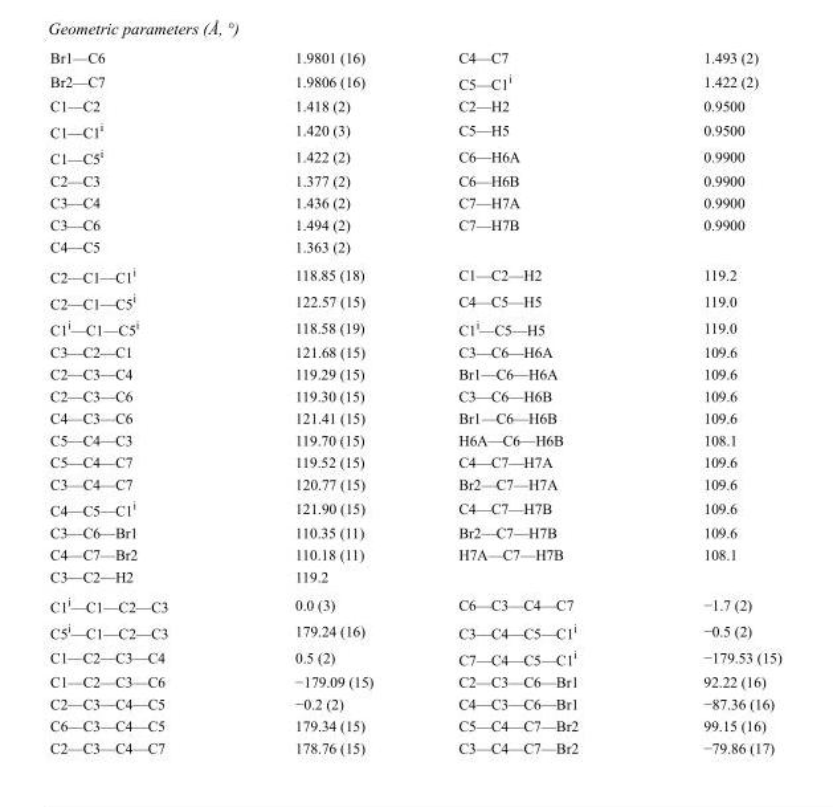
<table><tbody><tr><td>Br1—C6</td><td>1.9801 (16)</td><td>C4—C7</td><td>1.493 (2)</td></tr><tr><td>Br2—C7</td><td>1.9806 (16)</td><td>C5—C1<sup>i</sup></td><td>1.422 (2)</td></tr><tr><td>C1—C2</td><td>1.418 (2)</td><td>C2—H2</td><td>0.9500</td></tr><tr><td>C1—C1<sup>i</sup></td><td>1.420 (3)</td><td>C5—H5</td><td>0.9500</td></tr><tr><td>C1—C5<sup>i</sup></td><td>1.422 (2)</td><td>C6—H6A</td><td>0.9900</td></tr><tr><td>C2—C3</td><td>1.377 (2)</td><td>C6—H6B</td><td>0.9900</td></tr><tr><td>C3—C4</td><td>1.436 (2)</td><td>C7—H7A</td><td>0.9900</td></tr><tr><td>C3—C6</td><td>1.494 (2)</td><td>C7—H7B</td><td>0.9900</td></tr><tr><td>C4—C5</td><td>1.363 (2)</td><td></td><td></td></tr><tr><td>C2—C1—C1<sup>i</sup></td><td>118.85 (18)</td><td>C1—C2—H2</td><td>119.2</td></tr><tr><td>C2—C1—C5<sup>i</sup></td><td>122.57 (15)</td><td>C4—C5—H5</td><td>119.0</td></tr><tr><td>C1<sup>i</sup>—C1—C5<sup>i</sup></td><td>118.58 (19)</td><td>C1<sup>i</sup>—C5—H5</td><td>119.0</td></tr><tr><td>C3—C2—C1</td><td>121.68 (15)</td><td>C3—C6—H6A</td><td>109.6</td></tr><tr><td>C2—C3—C4</td><td>119.29 (15)</td><td>Br1—C6—H6A</td><td>109.6</td></tr><tr><td>C2—C3—C6</td><td>119.30 (15)</td><td>C3—C6—H6B</td><td>109.6</td></tr><tr><td>C4—C3—C6</td><td>121.41 (15)</td><td>Br1—C6—H6B</td><td>109.6</td></tr><tr><td>C5—C4—C3</td><td>119.70 (15)</td><td>H6A—C6—H6B</td><td>108.1</td></tr><tr><td>C5—C4—C7</td><td>119.52 (15)</td><td>C4—C7—H7A</td><td>109.6</td></tr><tr><td>C3—C4—C7</td><td>120.77 (15)</td><td>Br2—C7—H7A</td><td>109.6</td></tr><tr><td>C4—C5—C1<sup>i</sup></td><td>121.90 (15)</td><td>C4—C7—H7B</td><td>109.6</td></tr><tr><td>C3—C6—Br1</td><td>110.35 (11)</td><td>Br2—C7—H7B</td><td>109.6</td></tr><tr><td>C4—C7—Br2</td><td>110.18 (11)</td><td>H7A—C7—H7B</td><td>108.1</td></tr><tr><td>C3—C2—H2</td><td>119.2</td><td></td><td></td></tr><tr><td>C1<sup>i</sup>—C1—C2—C3</td><td>0.0 (3)</td><td>C6—C3—C4—C7</td><td>−1.7 (2)</td></tr><tr><td>C5<sup>i</sup>—C1—C2—C3</td><td>179.24 (16)</td><td>C3—C4—C5—C1<sup>i</sup></td><td>−0.5 (2)</td></tr><tr><td>C1—C2—C3—C4</td><td>0.5 (2)</td><td>C7—C4—C5—C1<sup>i</sup></td><td>−179.53 (15)</td></tr><tr><td>C1—C2—C3—C6</td><td>−179.09 (15)</td><td>C2—C3—C6—Br1</td><td>92.22 (16)</td></tr><tr><td>C2—C3—C4—C5</td><td>−0.2 (2)</td><td>C4—C3—C6—Br1</td><td>−87.36 (16)</td></tr><tr><td>C6—C3—C4—C5</td><td>179.34 (15)</td><td>C5—C4—C7—Br2</td><td>99.15 (16)</td></tr><tr><td>C2—C3—C4—C7</td><td>178.76 (15)</td><td>C3—C4—C7—Br2</td><td>−79.86 (17)</td></tr></tbody></table>